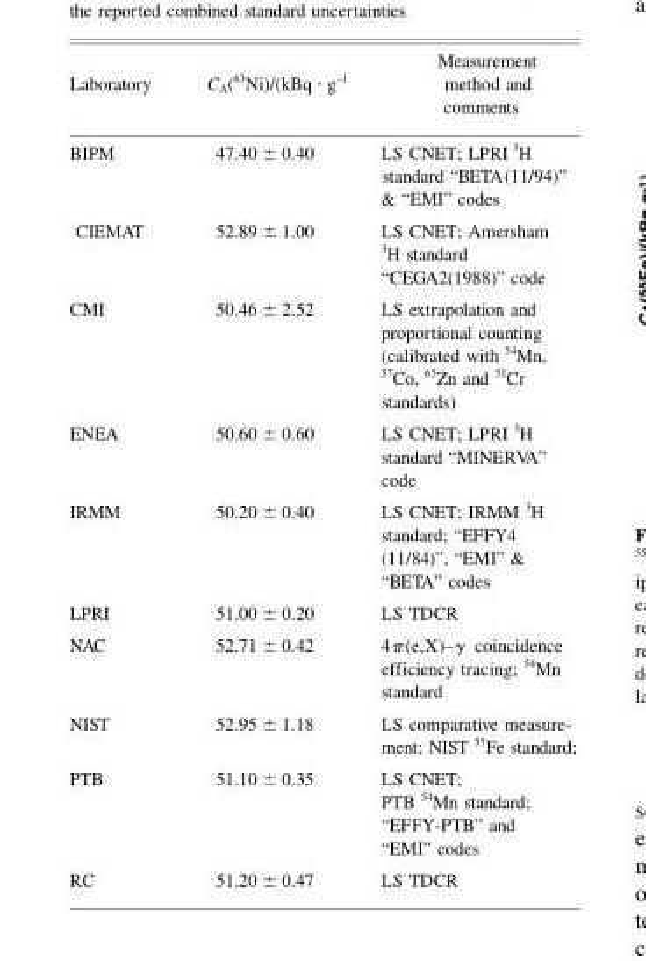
<table><thead><tr><td>Laboratory</td><td>C<sub>A</sub>(<sup>63</sup>Ni)/(kBq · g<sup>–1</sup></td><td>method and comments</td></tr></thead><tbody><tr><td>BIPM</td><td>47.40 ± 0.40</td><td>LS CNET; LPRI <sup>3</sup>H standard “BETA(11/94)” &amp; “EMI” codes</td></tr><tr><td>CIEMAT</td><td>52.89 ± 1.00</td><td>LS CNET; Amersham <sup>3</sup>H standard “CEGA2(1988)” code</td></tr><tr><td>CMI</td><td>50.46 ± 2.52</td><td>LS extrapolation and proportional counting (calibrated with <sup>54</sup>Mn, <sup>57</sup>Co, <sup>65</sup>Zn and <sup>51</sup>Cr standards)</td></tr><tr><td>ENEA</td><td>50.60 ± 0.60</td><td>LS CNET; LPRI <sup>3</sup>H standard “MINERVA” code</td></tr><tr><td>IRMM</td><td>50.20 ± 0.40</td><td>LS CNET; IRMM <sup>3</sup>H standard; “EFFY4 (11/84)”, “EMI” &amp; “BETA” codes</td></tr><tr><td>LPRI</td><td>51.00 ± 0.20</td><td>LS TDCR</td></tr><tr><td>NAC</td><td>52.71 ± 0.42</td><td>4π(e,X)–γ coincidence efficiency tracing; <sup>54</sup>Mn standard</td></tr><tr><td>NIST</td><td>52.95 ± 1.18</td><td>LS comparative measure- ment; NIST 55Fe standard;</td></tr><tr><td>PTB</td><td>51.10 ± 0.35</td><td>LS CNET; PTB <sup>54</sup>Mn standard; “EFFY-PTB” and “EMI” codes</td></tr><tr><td>RC</td><td>51.20 ± 0.47</td><td>LS TDCR</td></tr></tbody></table>